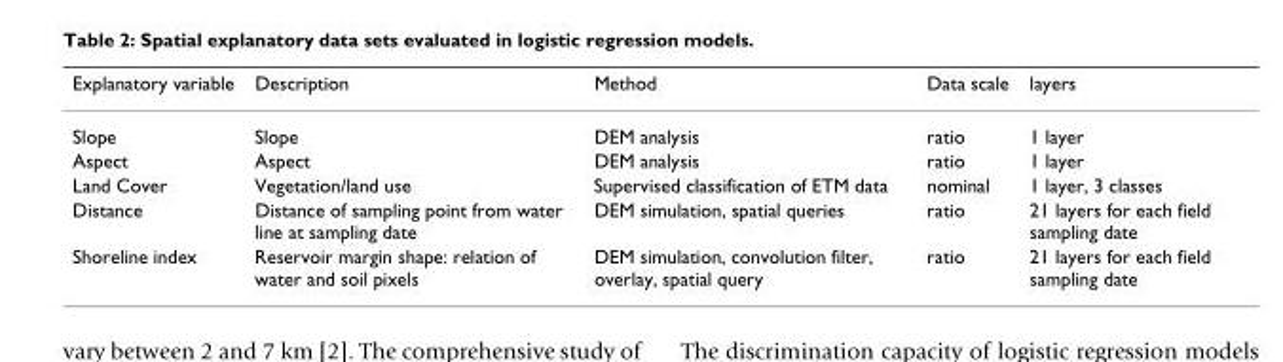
<table><thead><tr><td>Explanatory variable</td><td>Description</td><td>Method</td><td>Data scale</td><td>layers</td></tr></thead><tbody><tr><td>Slope</td><td>Slope</td><td>DEM analysis</td><td>ratio</td><td>1 layer</td></tr><tr><td>Aspect</td><td>Aspect</td><td>DEM analysis</td><td>ratio</td><td>1 layer</td></tr><tr><td>Land Cover</td><td>Vegetation/land use</td><td>Supervised classification of ETM data</td><td>nominal</td><td>1 layer, 3 classes</td></tr><tr><td>Distance</td><td>Distance of sampling point from water line at sampling date</td><td>DEM simulation, spatial queries</td><td>ratio</td><td>21 layers for each field sampling date</td></tr><tr><td>Shoreline index</td><td>Reservoir margin shape: relation of water and soil pixels</td><td>DEM simulation, convolution filter, overlay, spatial query</td><td>ratio</td><td>21 layers for each field sampling date</td></tr></tbody></table>